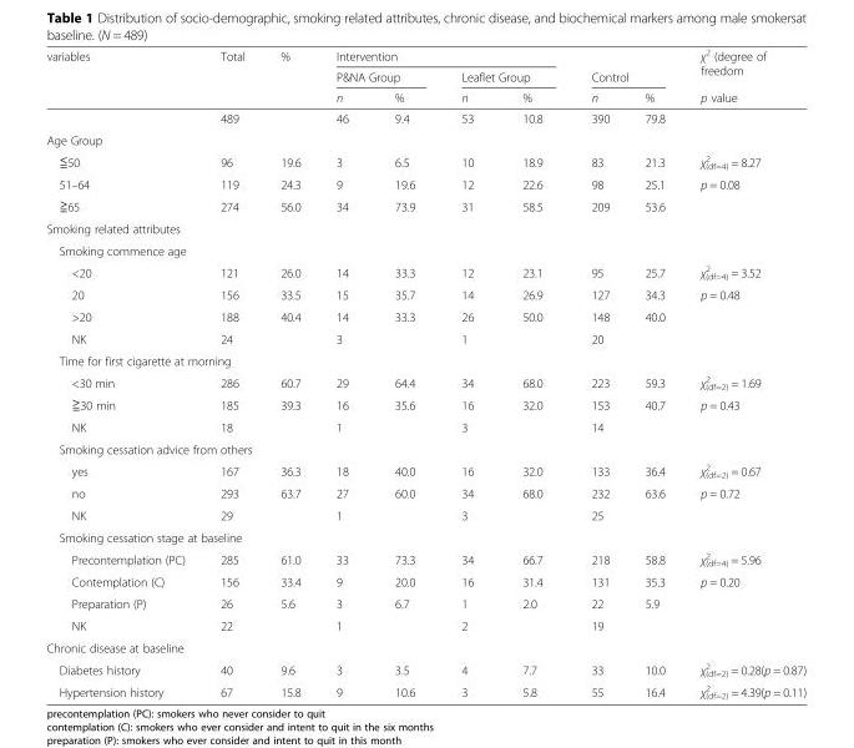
<table><thead><tr><td rowspan="3">variables</td><td rowspan="3">Total</td><td rowspan="3">%</td><td colspan="4">Intervention</td><td></td><td></td><td rowspan="3">χ<sup>2</sup> (degree of freedom p value</td></tr><tr><td colspan="2">P&amp;NA Group</td><td colspan="2">Leaflet Group</td><td colspan="2">Control</td></tr><tr><td>n</td><td>%</td><td>n</td><td>%</td><td>n</td><td>%</td></tr></thead><tbody><tr><td></td><td>489</td><td></td><td>46</td><td>9.4</td><td>53</td><td>10.8</td><td>390</td><td>79.8</td><td></td></tr><tr><td colspan="10">Age Group</td></tr><tr><td>≦50</td><td>96</td><td>19.6</td><td>3</td><td>6.5</td><td>10</td><td>18.9</td><td>83</td><td>21.3</td><td>χ<sup>2</sup> <sub>(df=4)</sub> = 8.27</td></tr><tr><td>51–64</td><td>119</td><td>24.3</td><td>9</td><td>19.6</td><td>12</td><td>22.6</td><td>98</td><td>25.1</td><td>p = 0.08</td></tr><tr><td>≧65</td><td>274</td><td>56.0</td><td>34</td><td>73.9</td><td>31</td><td>58.5</td><td>209</td><td>53.6</td><td></td></tr><tr><td colspan="10">Smoking related attributes</td></tr><tr><td colspan="10">Smoking commence age</td></tr><tr><td>&lt;20</td><td>121</td><td>26.0</td><td>14</td><td>33.3</td><td>12</td><td>23.1</td><td>95</td><td>25.7</td><td>χ<sup>2</sup> <sub>(df=4)</sub> = 3.52</td></tr><tr><td>20</td><td>156</td><td>33.5</td><td>15</td><td>35.7</td><td>14</td><td>26.9</td><td>127</td><td>34.3</td><td>p = 0.48</td></tr><tr><td>&gt;20</td><td>188</td><td>40.4</td><td>14</td><td>33.3</td><td>26</td><td>50.0</td><td>148</td><td>40.0</td><td></td></tr><tr><td>NK</td><td>24</td><td></td><td>3</td><td></td><td>1</td><td></td><td>20</td><td></td><td></td></tr><tr><td colspan="10">Time for first cigarette at morning</td></tr><tr><td>&lt;30 min</td><td>286</td><td>60.7</td><td>29</td><td>64.4</td><td>34</td><td>68.0</td><td>223</td><td>59.3</td><td>χ<sup>2</sup> <sub>(df=2)</sub> = 1.69</td></tr><tr><td>≧30 min</td><td>185</td><td>39.3</td><td>16</td><td>35.6</td><td>16</td><td>32.0</td><td>153</td><td>40.7</td><td>p = 0.43</td></tr><tr><td>NK</td><td>18</td><td></td><td>1</td><td></td><td>3</td><td></td><td>14</td><td></td><td></td></tr><tr><td colspan="10">Smoking cessation advice from others</td></tr><tr><td>yes</td><td>167</td><td>36.3</td><td>18</td><td>40.0</td><td>16</td><td>32.0</td><td>133</td><td>36.4</td><td>χ<sup>2</sup> <sub>(df=2)</sub> = 0.67</td></tr><tr><td>no</td><td>293</td><td>63.7</td><td>27</td><td>60.0</td><td>34</td><td>68.0</td><td>232</td><td>63.6</td><td>p = 0.72</td></tr><tr><td>NK</td><td>29</td><td></td><td>1</td><td></td><td>3</td><td></td><td>25</td><td></td><td></td></tr><tr><td colspan="10">Smoking cessation stage at baseline</td></tr><tr><td>Precontemplation (PC)</td><td>285</td><td>61.0</td><td>33</td><td>73.3</td><td>34</td><td>66.7</td><td>218</td><td>58.8</td><td>χ<sup>2</sup> <sub>(df=4)</sub> = 5.96</td></tr><tr><td>Contemplation (C)</td><td>156</td><td>33.4</td><td>9</td><td>20.0</td><td>16</td><td>31.4</td><td>131</td><td>35.3</td><td>p = 0.20</td></tr><tr><td>Preparation (P)</td><td>26</td><td>5.6</td><td>3</td><td>6.7</td><td>1</td><td>2.0</td><td>22</td><td>5.9</td><td></td></tr><tr><td>NK</td><td>22</td><td></td><td>1</td><td></td><td>2</td><td></td><td>19</td><td></td><td></td></tr><tr><td colspan="10">Chronic disease at baseline</td></tr><tr><td>Diabetes history</td><td>40</td><td>9.6</td><td>3</td><td>3.5</td><td>4</td><td>7.7</td><td>33</td><td>10.0</td><td>χ<sup>2</sup> <sub>(df=2)</sub> = 0.28(p = 0.87)</td></tr><tr><td>Hypertension history</td><td>67</td><td>15.8</td><td>9</td><td>10.6</td><td>3</td><td>5.8</td><td>55</td><td>16.4</td><td>χ<sup>2</sup> <sub>(df=2)</sub> = 4.39(p = 0.11)</td></tr></tbody></table>